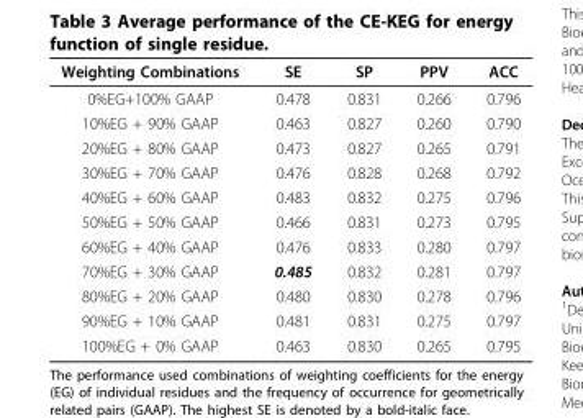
<table><thead><tr><td>Weighting Combinations</td><td>SE</td><td>SP</td><td>PPV</td><td>ACC</td></tr></thead><tbody><tr><td>0%EG+100% GAAP</td><td>0.478</td><td>0.831</td><td>0.266</td><td>0.796</td></tr><tr><td>10%EG + 90% GAAP</td><td>0.463</td><td>0.827</td><td>0.260</td><td>0.790</td></tr><tr><td>20%EG + 80% GAAP</td><td>0.473</td><td>0.827</td><td>0.265</td><td>0.791</td></tr><tr><td>30%EG + 70% GAAP</td><td>0.476</td><td>0.828</td><td>0.268</td><td>0.792</td></tr><tr><td>40%EG + 60% GAAP</td><td>0.483</td><td>0.832</td><td>0.275</td><td>0.796</td></tr><tr><td>50%EG + 50% GAAP</td><td>0.466</td><td>0.831</td><td>0.273</td><td>0.795</td></tr><tr><td>60%EG + 40% GAAP</td><td>0.476</td><td>0.833</td><td>0.280</td><td>0.797</td></tr><tr><td>70%EG + 30% GAAP</td><td>0.485</td><td>0.832</td><td>0.281</td><td>0.797</td></tr><tr><td>80%EG + 20% GAAP</td><td>0.480</td><td>0.830</td><td>0.278</td><td>0.796</td></tr><tr><td>90%EG + 10% GAAP</td><td>0.481</td><td>0.831</td><td>0.275</td><td>0.797</td></tr><tr><td>100%EG + 0% GAAP</td><td>0.463</td><td>0.830</td><td>0.265</td><td>0.795</td></tr></tbody></table>